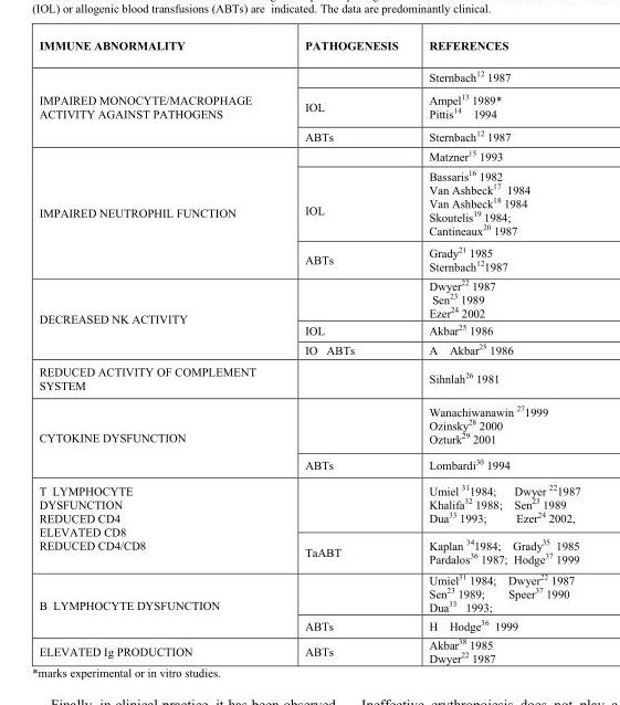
<table><thead><tr><td>IMMUNE ABNORMALITY</td><td>PATHOGENESIS</td><td>REFERENCES</td></tr></thead><tbody><tr><td rowspan="3">IMPAIRED MONOCYTE/MACROPHAGE ACTIVITY AGAINST PATHOGENS</td><td></td><td>Sternbach<sup>12</sup> 1987</td></tr><tr><td>IOL</td><td>Ampel<sup>13</sup> 1989* Pittis<sup>14</sup> 1994</td></tr><tr><td>ABTs</td><td>Sternbach<sup>12</sup> 1987</td></tr><tr><td rowspan="3">IMPAIRED NEUTROPHIL FUNCTION</td><td></td><td>Matzner<sup>15</sup> 1993</td></tr><tr><td>IOL</td><td>Bassaris<sup>16</sup> 1982 Van Ashbeck<sup>17</sup> 1984 Van Ashbeck<sup>18</sup> 1984 Skoutelis<sup>19</sup> 1984; Cantineaux<sup>20</sup> 1987</td></tr><tr><td>ABTs</td><td>Grady<sup>21</sup> 1985 Sternbach<sup>12</sup>1987</td></tr><tr><td rowspan="3">DECREASED NK ACTIVITY</td><td></td><td>Dwyer<sup>22</sup> 1987 Sen<sup>23</sup> 1989 Ezer<sup>24</sup> 2002</td></tr><tr><td>IOL</td><td>Akbar<sup>25</sup> 1986</td></tr><tr><td>IO ABTs</td><td>A Akbar<sup>25</sup> 1986</td></tr><tr><td>REDUCED ACTIVITY OF COMPLEMENT SYSTEM</td><td></td><td>Sihnlah<sup>26</sup> 1981</td></tr><tr><td rowspan="2">CYTOKINE DYSFUNCTION</td><td></td><td>Wanachiwanawin 271999 Ozinsky<sup>28</sup> 2000 Ozturk<sup>29</sup> 2001</td></tr><tr><td>ABTs</td><td>Lombardi<sup>30</sup> 1994</td></tr><tr><td rowspan="2">T LYMPHOCYTE DYSFUNCTION REDUCED CD4 ELEVATED CD8 REDUCED CD4/CD8</td><td></td><td>Umiel 311984; Dwyer 221987 Khalifa<sup>32</sup> 1988; Sen<sup>23</sup> 1989 Dua<sup>33</sup> 1993; Ezer<sup>24</sup> 2002,</td></tr><tr><td>TaABT</td><td>Kaplan 341984; Grady<sup>35</sup> 1985 Pardalos<sup>36</sup> 1987; Hodge<sup>37</sup> 1999</td></tr><tr><td rowspan="2">B LYMPHOCYTE DYSFUNCTION</td><td></td><td>Umiel<sup>31</sup> 1984; Dwyer<sup>22</sup> 1987 Sen<sup>23</sup> 1989; Speer<sup>37</sup> 1990 Dua<sup>33</sup> 1993;</td></tr><tr><td>ABTs</td><td>H Hodge<sup>36</sup> 1999</td></tr><tr><td>ELEVATED Ig PRODUCTION</td><td>ABTs</td><td>Akbar<sup>38</sup> 1985 Dwyer<sup>22</sup> 1987</td></tr></tbody></table>